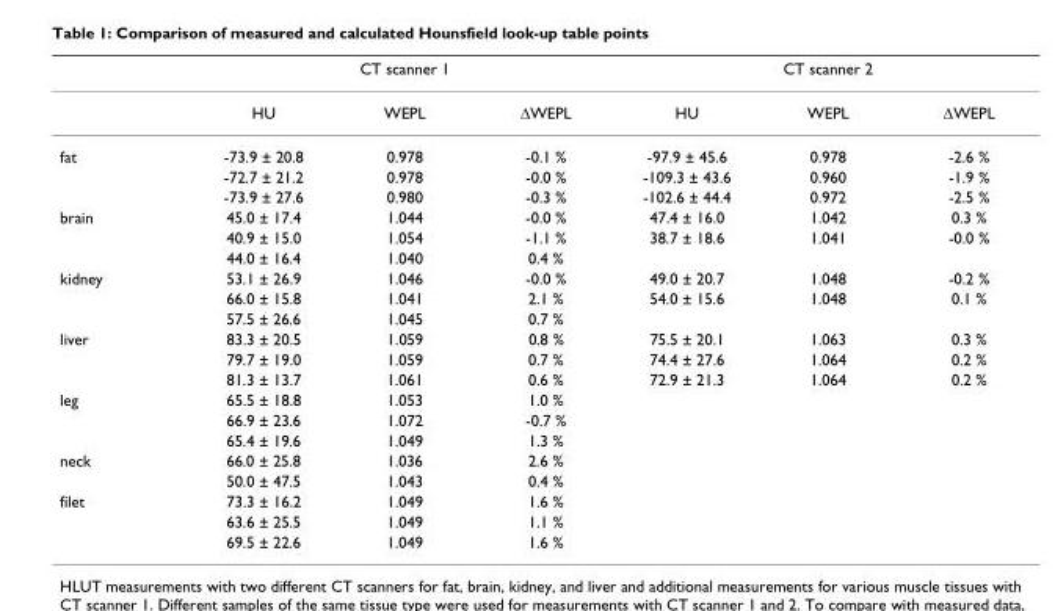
<table><thead><tr><td rowspan="2"></td><td colspan="3">CT scanner 1</td><td colspan="3">CT scanner 2</td></tr><tr><td>HU</td><td>WEPL</td><td>ΔWEPL</td><td>HU</td><td>WEPL</td><td>ΔWEPL</td></tr></thead><tbody><tr><td rowspan="3">fat</td><td>-73.9 ± 20.8</td><td>0.978</td><td>-0.1 %</td><td>-97.9 ± 45.6</td><td>0.978</td><td>-2.6 %</td></tr><tr><td>-72.7 ± 21.2</td><td>0.978</td><td>-0.0 %</td><td>-109.3 ± 43.6</td><td>0.960</td><td>-1.9 %</td></tr><tr><td>-73.9 ± 27.6</td><td>0.980</td><td>-0.3 %</td><td>-102.6 ± 44.4</td><td>0.972</td><td>-2.5 %</td></tr><tr><td rowspan="3">brain</td><td>45.0 ± 17.4</td><td>1.044</td><td>-0.0 %</td><td>47.4 ± 16.0</td><td>1.042</td><td>0.3 %</td></tr><tr><td>40.9 ± 15.0</td><td>1.054</td><td>-1.1 %</td><td>38.7 ± 18.6</td><td>1.041</td><td>-0.0 %</td></tr><tr><td>44.0 ± 16.4</td><td>1.040</td><td>0.4 %</td><td></td><td></td><td></td></tr><tr><td rowspan="3">kidney</td><td>53.1 ± 26.9</td><td>1.046</td><td>-0.0 %</td><td>49.0 ± 20.7</td><td>1.048</td><td>-0.2 %</td></tr><tr><td>66.0 ± 15.8</td><td>1.041</td><td>2.1 %</td><td>54.0 ± 15.6</td><td>1.048</td><td>0.1 %</td></tr><tr><td>57.5 ± 26.6</td><td>1.045</td><td>0.7 %</td><td></td><td></td><td></td></tr><tr><td rowspan="3">liver</td><td>83.3 ± 20.5</td><td>1.059</td><td>0.8 %</td><td>75.5 ± 20.1</td><td>1.063</td><td>0.3 %</td></tr><tr><td>79.7 ± 19.0</td><td>1.059</td><td>0.7 %</td><td>74.4 ± 27.6</td><td>1.064</td><td>0.2 %</td></tr><tr><td>81.3 ± 13.7</td><td>1.061</td><td>0.6 %</td><td>72.9 ± 21.3</td><td>1.064</td><td>0.2 %</td></tr><tr><td rowspan="3">leg</td><td>65.5 ± 18.8</td><td>1.053</td><td>1.0 %</td><td></td><td></td><td></td></tr><tr><td>66.9 ± 23.6</td><td>1.072</td><td>-0.7 %</td><td></td><td></td><td></td></tr><tr><td>65.4 ± 19.6</td><td>1.049</td><td>1.3 %</td><td></td><td></td><td></td></tr><tr><td rowspan="2">neck</td><td>66.0 ± 25.8</td><td>1.036</td><td>2.6 %</td><td></td><td></td><td></td></tr><tr><td>50.0 ± 47.5</td><td>1.043</td><td>0.4 %</td><td></td><td></td><td></td></tr><tr><td rowspan="3">filet</td><td>73.3 ± 16.2</td><td>1.049</td><td>1.6 %</td><td></td><td></td><td></td></tr><tr><td>63.6 ± 25.5</td><td>1.049</td><td>1.1 %</td><td></td><td></td><td></td></tr><tr><td>69.5 ± 22.6</td><td>1.049</td><td>1.6 %</td><td></td><td></td><td></td></tr></tbody></table>